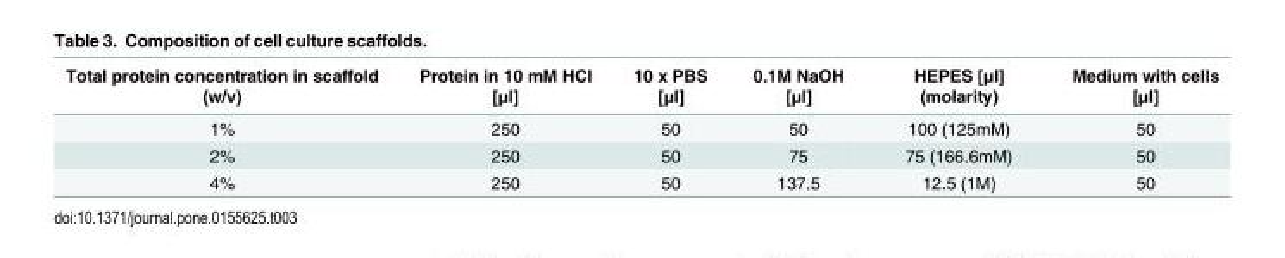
<table><thead><tr><td>Total protein concentration in scaffold (w/v)</td><td>Protein in 10 mM HCl [μl]</td><td>10 x PBS [μl]</td><td>0.1M NaOH [μl]</td><td>HEPES [μl] (molarity)</td><td>Medium with cells [μl]</td></tr></thead><tbody><tr><td>1%</td><td>250</td><td>50</td><td>50</td><td>100 (125mM)</td><td>50</td></tr><tr><td>2%</td><td>250</td><td>50</td><td>75</td><td>75 (166.6mM)</td><td>50</td></tr><tr><td>4%</td><td>250</td><td>50</td><td>137.5</td><td>12.5 (1M)</td><td>50</td></tr></tbody></table>